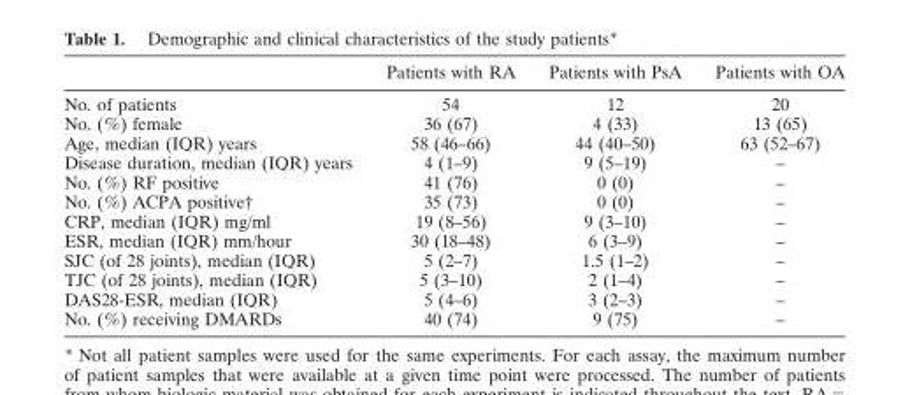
<table><thead><tr><td></td><td>Patients with RA</td><td>Patients with PsA</td><td>Patients with OA</td></tr></thead><tbody><tr><td>No. of patients</td><td>54</td><td>12</td><td>20</td></tr><tr><td>No. (%) female</td><td>36 (67)</td><td>4 (33)</td><td>13 (65)</td></tr><tr><td>Age, median (IQR) years</td><td>58 (46–66)</td><td>44 (40–50)</td><td>63 (52–67)</td></tr><tr><td>Disease duration, median (IQR) years</td><td>4 (1–9)</td><td>9 (5–19)</td><td>–</td></tr><tr><td>No. (%) RF positive</td><td>41 (76)</td><td>0 (0)</td><td>–</td></tr><tr><td>No. (%) ACPA positive†</td><td>35 (73)</td><td>0 (0)</td><td>–</td></tr><tr><td>CRP, median (IQR) mg/ml</td><td>19 (8–56)</td><td>9 (3–10)</td><td>–</td></tr><tr><td>ESR, median (IQR) mm/hour</td><td>30 (18–48)</td><td>6 (3–9)</td><td>–</td></tr><tr><td>SJC (of 28 joints), median (IQR)</td><td>5 (2–7)</td><td>1.5 (1–2)</td><td>–</td></tr><tr><td>TJC (of 28 joints), median (IQR)</td><td>5 (3–10)</td><td>2 (1–4)</td><td>–</td></tr><tr><td>DAS28-ESR, median (IQR)</td><td>5 (4–6)</td><td>3 (2–3)</td><td>–</td></tr><tr><td>No. (%) receiving DMARDs</td><td>40 (74)</td><td>9 (75)</td><td>–</td></tr></tbody></table>